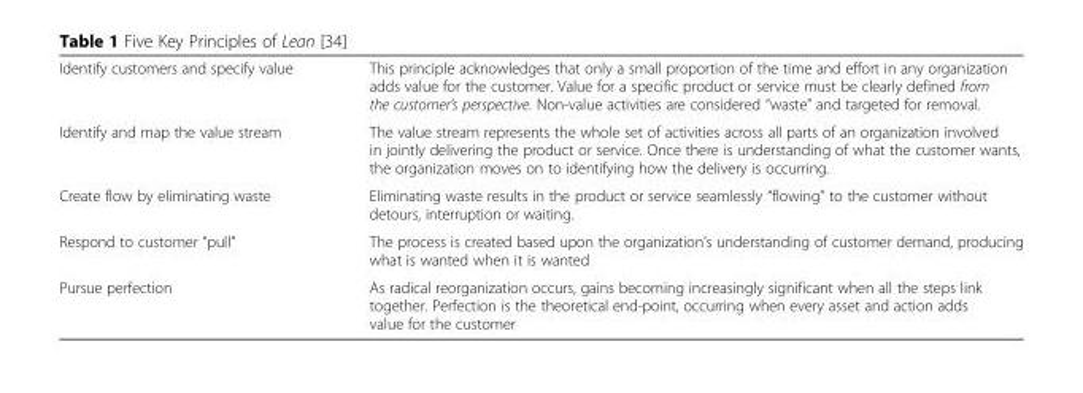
<table><tbody><tr><td>Identify customers and specify value</td><td>This principle acknowledges that only a small proportion of the time and effort in any organization adds value for the customer. Value for a specific product or service must be clearly defined from the customer’s perspective. Non-value activities are considered “waste” and targeted for removal.</td></tr><tr><td>Identify and map the value stream</td><td>The value stream represents the whole set of activities across all parts of an organization involved in jointly delivering the product or service. Once there is understanding of what the customer wants, the organization moves on to identifying how the delivery is occurring.</td></tr><tr><td>Create flow by eliminating waste</td><td>Eliminating waste results in the product or service seamlessly “flowing” to the customer without detours, interruption or waiting.</td></tr><tr><td>Respond to customer “pull”</td><td>The process is created based upon the organization’s understanding of customer demand, producing what is wanted when it is wanted</td></tr><tr><td>Pursue perfection</td><td>As radical reorganization occurs, gains becoming increasingly significant when all the steps link together. Perfection is the theoretical end-point, occurring when every asset and action adds value for the customer</td></tr></tbody></table>